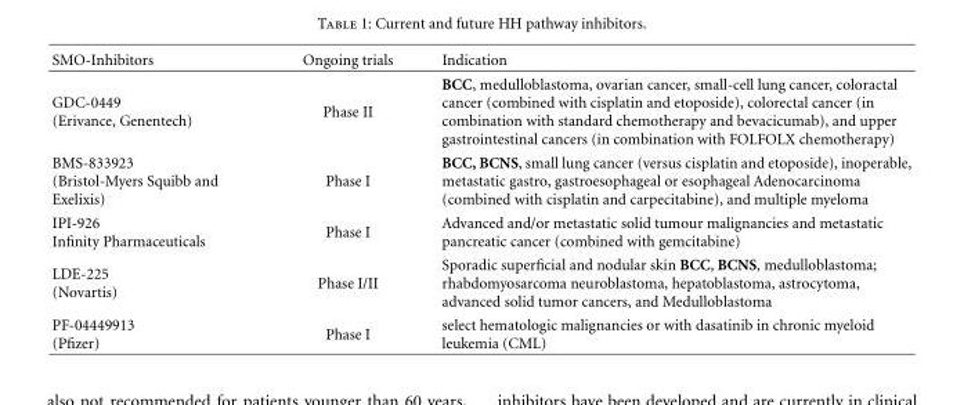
<table><thead><tr><td>SMO-Inhibitors</td><td>Ongoing trials</td><td>Indication</td></tr></thead><tbody><tr><td>GDC-0449 (Erivance, Genentech)</td><td>Phase II</td><td>BCC, medulloblastoma, ovarian cancer, small-cell lung cancer, coloractal cancer (combined with cisplatin and etoposide), colorectal cancer (in combination with standard chemotherapy and bevacicumab), and upper gastrointestinal cancers (in combination with FOLFOLX chemotherapy)</td></tr><tr><td>BMS-833923 (Bristol-Myers Squibb and Exelixis)</td><td>Phase I</td><td>BCC, BCNS, small lung cancer (versus cisplatin and etoposide), inoperable, metastatic gastro, gastroesophageal or esophageal Adenocarcinoma (combined with cisplatin and carpecitabine), and multiple myeloma</td></tr><tr><td>IPI-926 Infinity Pharmaceuticals</td><td>Phase I</td><td>Advanced and/or metastatic solid tumour malignancies and metastatic pancreatic cancer (combined with gemcitabine)</td></tr><tr><td>LDE-225 (Novartis)</td><td>Phase I/II</td><td>Sporadic superficial and nodular skin BCC, BCNS, medulloblastoma; rhabdomyosarcoma neuroblastoma, hepatoblastoma, astrocytoma, advanced solid tumor cancers, and Medulloblastoma</td></tr><tr><td>PF-04449913 (Pfizer)</td><td>Phase I</td><td>select hematologic malignancies or with dasatinib in chronic myeloid leukemia (CML)</td></tr></tbody></table>